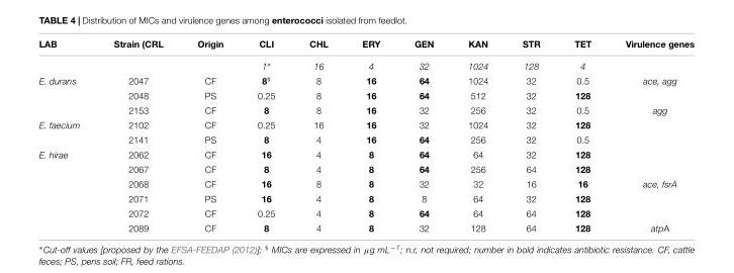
<table><thead><tr><td>LAB</td><td>Strain (CRL</td><td>Origin</td><td>CLI</td><td>CHL</td><td>ERY</td><td>GEN</td><td>KAN</td><td>STR</td><td>TET</td><td>Virulence genes</td></tr></thead><tbody><tr><td></td><td></td><td></td><td>1∗</td><td>16</td><td>4</td><td>32</td><td>1024</td><td>128</td><td>4</td><td></td></tr><tr><td rowspan="3">E. durans</td><td>2047</td><td>CF</td><td>8<sup>§</sup></td><td>8</td><td>16</td><td>64</td><td>1024</td><td>32</td><td>0.5</td><td>ace, agg</td></tr><tr><td>2048</td><td>PS</td><td>0.25</td><td>8</td><td>16</td><td>64</td><td>512</td><td>32</td><td>128</td><td></td></tr><tr><td>2153</td><td>CF</td><td>8</td><td>8</td><td>16</td><td>32</td><td>256</td><td>32</td><td>0.5</td><td>agg</td></tr><tr><td rowspan="2">E. faecium</td><td>2102</td><td>CF</td><td>0.25</td><td>16</td><td>16</td><td>32</td><td>1024</td><td>32</td><td>128</td><td></td></tr><tr><td>2141</td><td>PS</td><td>8</td><td>4</td><td>16</td><td>64</td><td>256</td><td>32</td><td>0.5</td><td></td></tr><tr><td rowspan="6">E. hirae</td><td>2062</td><td>CF</td><td>16</td><td>4</td><td>8</td><td>64</td><td>64</td><td>32</td><td>128</td><td></td></tr><tr><td>2067</td><td>CF</td><td>8</td><td>4</td><td>8</td><td>64</td><td>256</td><td>64</td><td>128</td><td></td></tr><tr><td>2068</td><td>CF</td><td>16</td><td>8</td><td>8</td><td>32</td><td>32</td><td>16</td><td>16</td><td>ace, fsrA</td></tr><tr><td>2071</td><td>PS</td><td>16</td><td>4</td><td>8</td><td>8</td><td>64</td><td>32</td><td>128</td><td></td></tr><tr><td>2072</td><td>CF</td><td>0.25</td><td>4</td><td>8</td><td>64</td><td>64</td><td>64</td><td>128</td><td></td></tr><tr><td>2089</td><td>CF</td><td>8</td><td>4</td><td>8</td><td>32</td><td>128</td><td>64</td><td>128</td><td>atpA</td></tr></tbody></table>